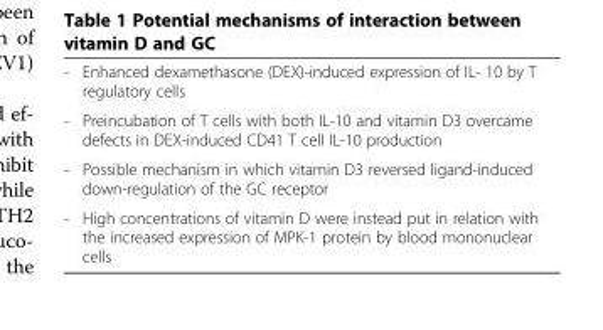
<table><tbody><tr><td>-</td><td>Enhanced dexamethasone (DEX)-induced expression of IL- 10 by T regulatory cells</td></tr><tr><td>-</td><td>Preincubation of T cells with both IL-10 and vitamin D3 overcame defects in DEX-induced CD41 T cell IL-10 production</td></tr><tr><td>-</td><td>Possible mechanism in which vitamin D3 reversed ligand-induced down-regulation of the GC receptor</td></tr><tr><td>-</td><td>High concentrations of vitamin D were instead put in relation with the increased expression of MPK-1 protein by blood mononuclear cells</td></tr></tbody></table>